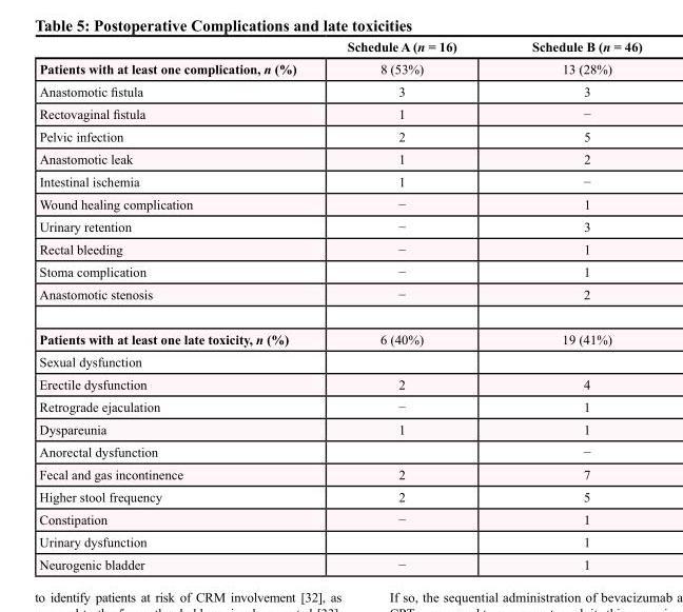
<table><thead><tr><td></td><td>Schedule A (n = 16)</td><td>Schedule B (n = 46)</td></tr></thead><tbody><tr><td>Patients with at least one complication, n (%)</td><td>8 (53%)</td><td>13 (28%)</td></tr><tr><td>Anastomotic fistula</td><td>3</td><td>3</td></tr><tr><td>Rectovaginal fistula</td><td>1</td><td>−</td></tr><tr><td>Pelvic infection</td><td>2</td><td>5</td></tr><tr><td>Anastomotic leak</td><td>1</td><td>2</td></tr><tr><td>Intestinal ischemia</td><td>1</td><td>−</td></tr><tr><td>Wound healing complication</td><td>−</td><td>1</td></tr><tr><td>Urinary retention</td><td>−</td><td>3</td></tr><tr><td>Rectal bleeding</td><td>−</td><td>1</td></tr><tr><td>Stoma complication</td><td>−</td><td>1</td></tr><tr><td>Anastomotic stenosis</td><td>−</td><td>2</td></tr><tr><td>Patients with at least one late toxicity, n (%)</td><td>6 (40%)</td><td>19 (41%)</td></tr><tr><td colspan="3">Sexual dysfunction</td></tr><tr><td>Erectile dysfunction</td><td>2</td><td>4</td></tr><tr><td>Retrograde ejaculation</td><td>−</td><td>1</td></tr><tr><td>Dyspareunia</td><td>1</td><td>1</td></tr><tr><td>Anorectal dysfunction</td><td></td><td>−</td></tr><tr><td>Fecal and gas incontinence</td><td>2</td><td>7</td></tr><tr><td>Higher stool frequency</td><td>2</td><td>5</td></tr><tr><td>Constipation</td><td>−</td><td>1</td></tr><tr><td>Urinary dysfunction</td><td></td><td>1</td></tr><tr><td>Neurogenic bladder</td><td>−</td><td>1</td></tr></tbody></table>